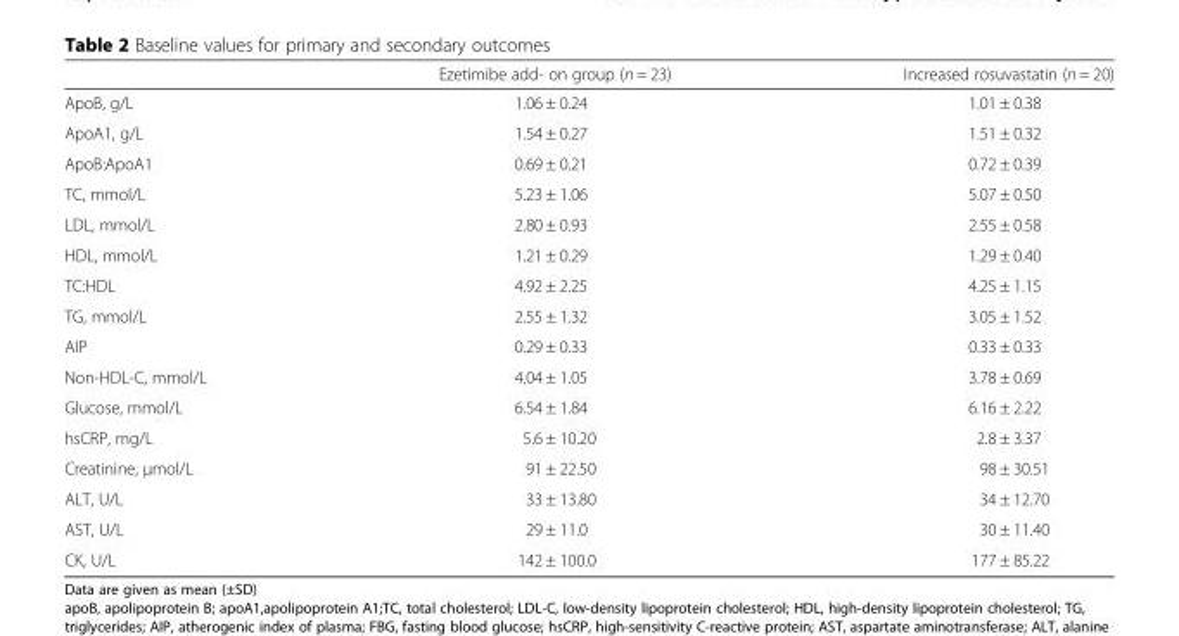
<table><thead><tr><td></td><td>Ezetimibe add- on group (n = 23)</td><td>Increased rosuvastatin (n = 20)</td></tr></thead><tbody><tr><td>ApoB, g/L</td><td>1.06 ± 0.24</td><td>1.01 ± 0.38</td></tr><tr><td>ApoA1, g/L</td><td>1.54 ± 0.27</td><td>1.51 ± 0.32</td></tr><tr><td>ApoB:ApoA1</td><td>0.69 ± 0.21</td><td>0.72 ± 0.39</td></tr><tr><td>TC, mmol/L</td><td>5.23 ± 1.06</td><td>5.07 ± 0.50</td></tr><tr><td>LDL, mmol/L</td><td>2.80 ± 0.93</td><td>2.55 ± 0.58</td></tr><tr><td>HDL, mmol/L</td><td>1.21 ± 0.29</td><td>1.29 ± 0.40</td></tr><tr><td>TC:HDL</td><td>4.92 ± 2.25</td><td>4.25 ± 1.15</td></tr><tr><td>TG, mmol/L</td><td>2.55 ± 1.32</td><td>3.05 ± 1.52</td></tr><tr><td>AIP</td><td>0.29 ± 0.33</td><td>0.33 ± 0.33</td></tr><tr><td>Non-HDL-C, mmol/L</td><td>4.04 ± 1.05</td><td>3.78 ± 0.69</td></tr><tr><td>Glucose, mmol/L</td><td>6.54 ± 1.84</td><td>6.16 ± 2.22</td></tr><tr><td>hsCRP, mg/L</td><td>5.6 ± 10.20</td><td>2.8 ± 3.37</td></tr><tr><td>Creatinine, μmol/L</td><td>91 ± 22.50</td><td>98 ± 30.51</td></tr><tr><td>ALT, U/L</td><td>33 ± 13.80</td><td>34 ± 12.70</td></tr><tr><td>AST, U/L</td><td>29 ± 11.0</td><td>30 ± 11.40</td></tr><tr><td>CK, U/L</td><td>142 ± 100.0</td><td>177 ± 85.22</td></tr></tbody></table>